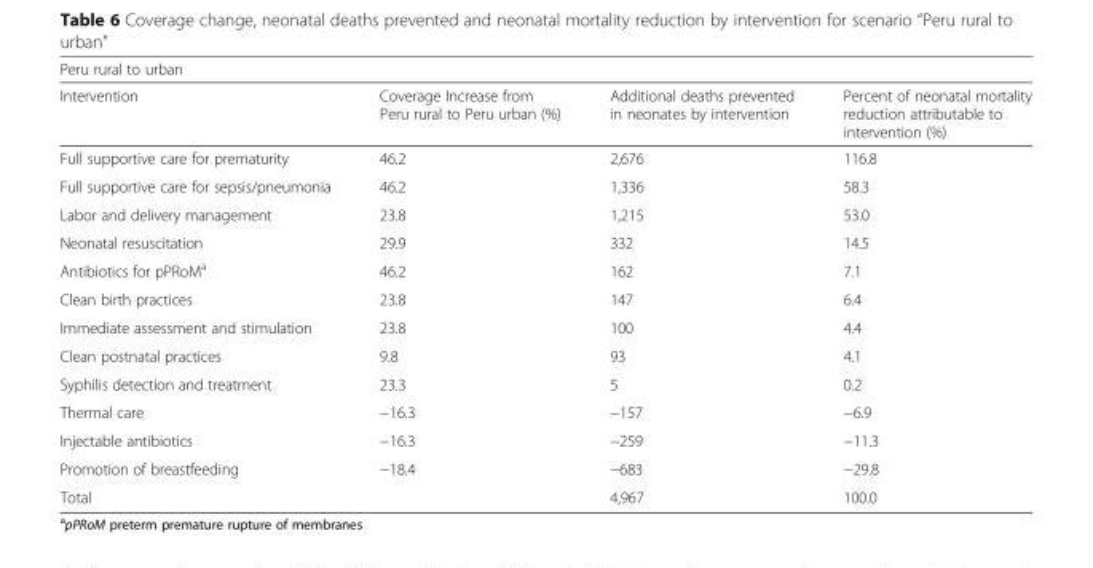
<table><thead><tr><td colspan="4">Peru rural to urban</td></tr><tr><td>Intervention</td><td>Coverage Increase from Peru rural to Peru urban (%)</td><td>Additional deaths prevented in neonates by intervention</td><td>Percent of neonatal mortality reduction attributable to intervention (%)</td></tr></thead><tbody><tr><td>Full supportive care for prematurity</td><td>46.2</td><td>2,676</td><td>116.8</td></tr><tr><td>Full supportive care for sepsis/pneumonia</td><td>46.2</td><td>1,336</td><td>58.3</td></tr><tr><td>Labor and delivery management</td><td>23.8</td><td>1,215</td><td>53.0</td></tr><tr><td>Neonatal resuscitation</td><td>29.9</td><td>332</td><td>14.5</td></tr><tr><td>Antibiotics for pPRoM<sup>a</sup></td><td>46.2</td><td>162</td><td>7.1</td></tr><tr><td>Clean birth practices</td><td>23.8</td><td>147</td><td>6.4</td></tr><tr><td>Immediate assessment and stimulation</td><td>23.8</td><td>100</td><td>4.4</td></tr><tr><td>Clean postnatal practices</td><td>9.8</td><td>93</td><td>4.1</td></tr><tr><td>Syphilis detection and treatment</td><td>23.3</td><td>5</td><td>0.2</td></tr><tr><td>Thermal care</td><td>−16.3</td><td>−157</td><td>−6.9</td></tr><tr><td>Injectable antibiotics</td><td>−16.3</td><td>−259</td><td>−11.3</td></tr><tr><td>Promotion of breastfeeding</td><td>−18.4</td><td>−683</td><td>−29.8</td></tr><tr><td>Total</td><td></td><td>4,967</td><td>100.0</td></tr></tbody></table>